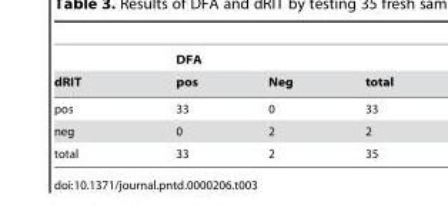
<table><thead><tr><td rowspan="2">dRIT</td><td colspan="2">DFA</td><td rowspan="2">total</td></tr><tr><td>pos</td><td>Neg</td></tr></thead><tbody><tr><td>pos</td><td>33</td><td>0</td><td>33</td></tr><tr><td>neg</td><td>0</td><td>2</td><td>2</td></tr><tr><td>total</td><td>33</td><td>2</td><td>35</td></tr></tbody></table>